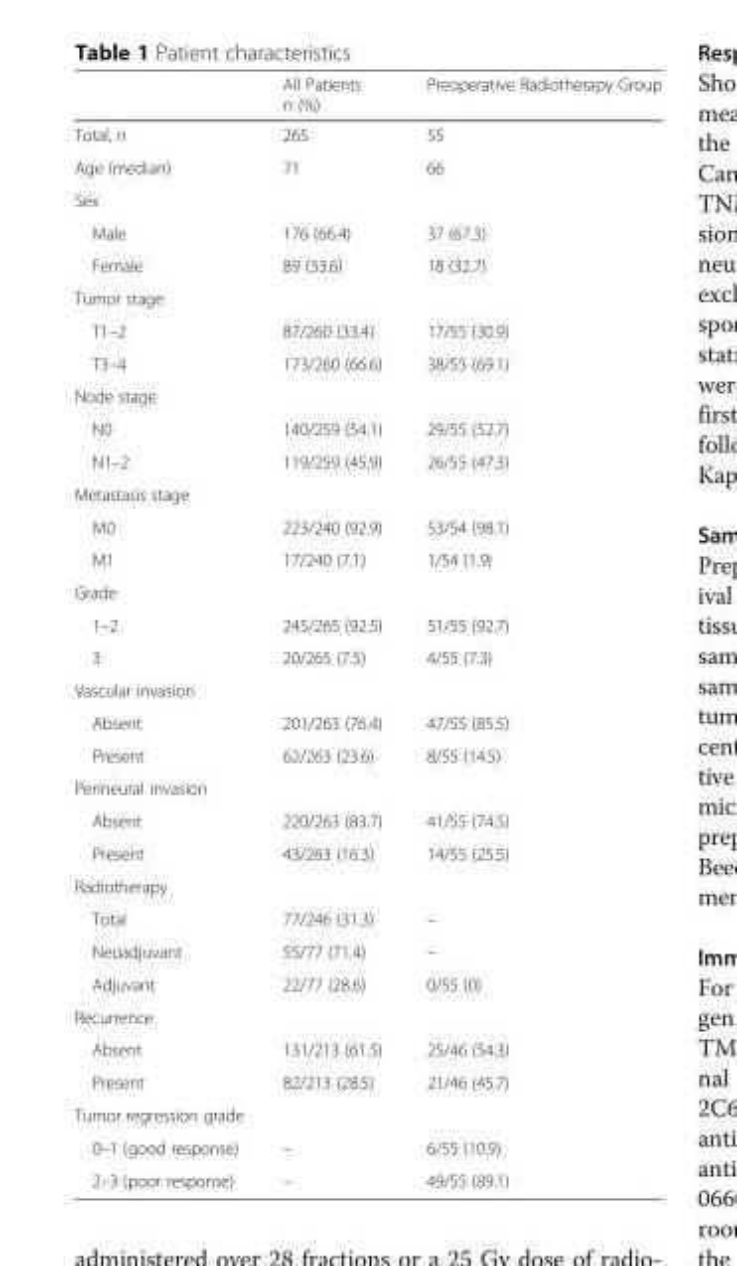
<table><thead><tr><td></td><td>All Patients n (%)</td><td>Preoperative Radiotherapy Group</td></tr></thead><tbody><tr><td>Total, n</td><td>265</td><td>55</td></tr><tr><td>Age (median)</td><td>71</td><td>66</td></tr><tr><td colspan="3">Sex</td></tr><tr><td>Male</td><td>176 (66.4)</td><td>37 (67.3)</td></tr><tr><td>Female</td><td>89 (33.6)</td><td>18 (32.7)</td></tr><tr><td colspan="3">Tumor stage</td></tr><tr><td>T1–2</td><td>87/260 (33.4)</td><td>17/55 (30.9)</td></tr><tr><td>T3–4</td><td>173/260 (66.6)</td><td>38/55 (69.1)</td></tr><tr><td colspan="3">Node stage</td></tr><tr><td>N0</td><td>140/259 (54.1)</td><td>29/55 (52.7)</td></tr><tr><td>N1–2</td><td>119/259 (45.9)</td><td>26/55 (47.3)</td></tr><tr><td colspan="3">Metastasis stage</td></tr><tr><td>M0</td><td>223/240 (92.9)</td><td>53/54 (98.1)</td></tr><tr><td>M1</td><td>17/240 (7.1)</td><td>1/54 (1.9)</td></tr><tr><td colspan="3">Grade</td></tr><tr><td>1–2</td><td>245/265 (92.5)</td><td>51/55 (92.7)</td></tr><tr><td>3</td><td>20/265 (7.5)</td><td>4/55 (7.3)</td></tr><tr><td colspan="3">Vascular invasion</td></tr><tr><td>Absent</td><td>201/263 (76.4)</td><td>47/55 (85.5)</td></tr><tr><td>Present</td><td>62/263 (23.6)</td><td>8/55 (14.5)</td></tr><tr><td colspan="3">Perineural invasion</td></tr><tr><td>Absent</td><td>220/263 (83.7)</td><td>41/55 (74.5)</td></tr><tr><td>Present</td><td>43/263 (16.3)</td><td>14/55 (25.5)</td></tr><tr><td colspan="3">Radiotherapy</td></tr><tr><td>Total</td><td>77/246 (31.3)</td><td>–</td></tr><tr><td>Neoadjuvant</td><td>55/77 (71.4)</td><td>–</td></tr><tr><td>Adjuvant</td><td>22/77 (28.6)</td><td>0/55 (0)</td></tr><tr><td colspan="3">Recurrence</td></tr><tr><td>Absent</td><td>131/213 (61.5)</td><td>25/46 (54.3)</td></tr><tr><td>Present</td><td>82/213 (28.5)</td><td>21/46 (45.7)</td></tr><tr><td colspan="3">Tumor regression grade</td></tr><tr><td>0–1 (good response)</td><td>–</td><td>6/55 (10.9)</td></tr><tr><td>2–3 (poor response)</td><td>–</td><td>49/55 (89.1)</td></tr></tbody></table>